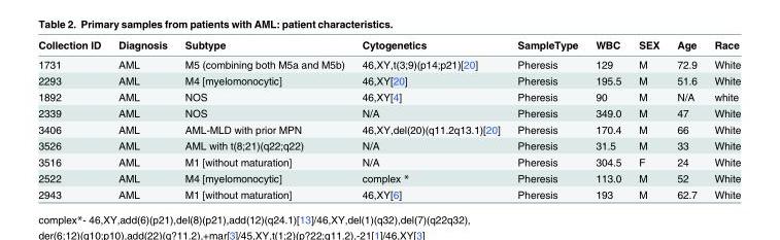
<table><thead><tr><td>Collection ID</td><td>Diagnosis</td><td>Subtype</td><td>Cytogenetics</td><td>SampleType</td><td>WBC</td><td>SEX</td><td>Age</td><td>Race</td></tr></thead><tbody><tr><td>1731</td><td>AML</td><td>M5 (combining both M5a and M5b)</td><td>46,XY,t(3;9)(p14;p21)[20]</td><td>Pheresis</td><td>129</td><td>M</td><td>72.9</td><td>White</td></tr><tr><td>2293</td><td>AML</td><td>M4 [myelomonocytic]</td><td>46,XY[20]</td><td>Pheresis</td><td>195.5</td><td>M</td><td>51.6</td><td>White</td></tr><tr><td>1892</td><td>AML</td><td>NOS</td><td>46,XY[4]</td><td>Pheresis</td><td>90</td><td>M</td><td>N/A</td><td>white</td></tr><tr><td>2339</td><td>AML</td><td>NOS</td><td>N/A</td><td>Pheresis</td><td>349.0</td><td>M</td><td>47</td><td>White</td></tr><tr><td>3406</td><td>AML</td><td>AML-MLD with prior MPN</td><td>46,XY,del(20)(q11.2q13.1)[20]</td><td>Pheresis</td><td>170.4</td><td>M</td><td>66</td><td>White</td></tr><tr><td>3526</td><td>AML</td><td>AML with t(8;21)(q22;q22)</td><td>N/A</td><td>Pheresis</td><td>31.5</td><td>M</td><td>33</td><td>White</td></tr><tr><td>3516</td><td>AML</td><td>M1 [without maturation]</td><td>N/A</td><td>Pheresis</td><td>304.5</td><td>F</td><td>24</td><td>White</td></tr><tr><td>2522</td><td>AML</td><td>M4 [myelomonocytic]</td><td>complex *</td><td>Pheresis</td><td>113.0</td><td>M</td><td>52</td><td>White</td></tr><tr><td>2943</td><td>AML</td><td>M1 [without maturation]</td><td>46,XY[6]</td><td>Pheresis</td><td>193</td><td>M</td><td>62.7</td><td>White</td></tr></tbody></table>